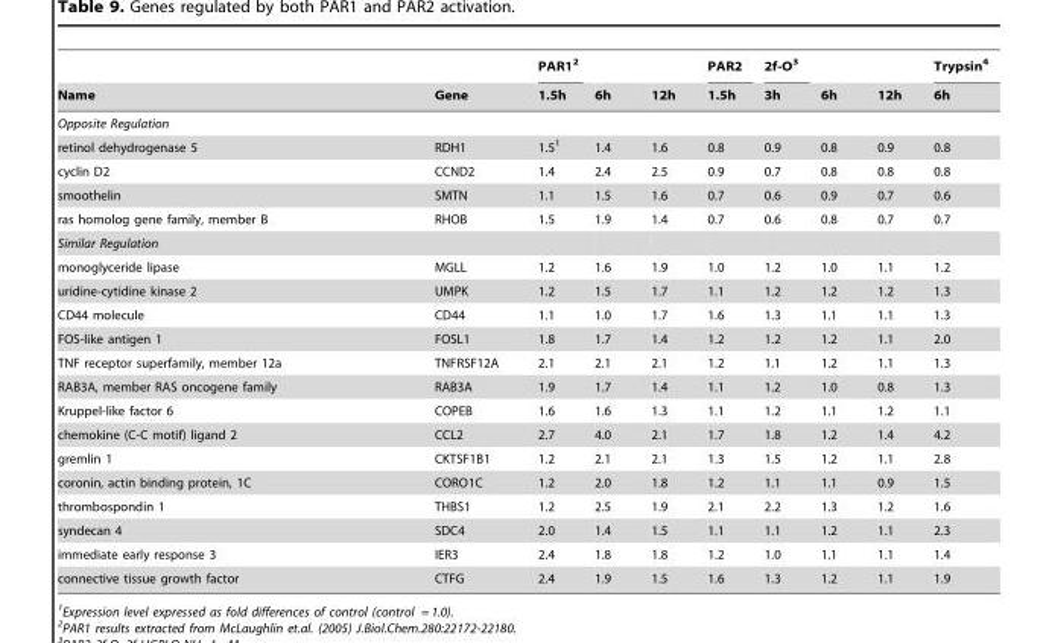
<table><thead><tr><td rowspan="2">Name</td><td rowspan="2">Gene</td><td rowspan="2">PAR1<sup>2</sup> 1.5h</td><td rowspan="2">6h</td><td rowspan="2">12h</td><td rowspan="2">PAR2 1.5h</td><td rowspan="2">2f-O<sup>3</sup> 3h</td><td rowspan="2">6h</td><td rowspan="2">12h</td><td rowspan="2">Trypsin<sup>4</sup> 6h</td></tr><tr></tr></thead><tbody><tr><td colspan="10">Opposite Regulation</td></tr><tr><td>retinol dehydrogenase 5</td><td>RDH1</td><td>1.5<sup>1</sup></td><td>1.4</td><td>1.6</td><td>0.8</td><td>0.9</td><td>0.8</td><td>0.9</td><td>0.8</td></tr><tr><td>cyclin D2</td><td>CCND2</td><td>1.4</td><td>2.4</td><td>2.5</td><td>0.9</td><td>0.7</td><td>0.8</td><td>0.8</td><td>0.8</td></tr><tr><td>smoothelin</td><td>SMTN</td><td>1.1</td><td>1.5</td><td>1.6</td><td>0.7</td><td>0.6</td><td>0.9</td><td>0.7</td><td>0.6</td></tr><tr><td>ras homolog gene family, member B</td><td>RHOB</td><td>1.5</td><td>1.9</td><td>1.4</td><td>0.7</td><td>0.6</td><td>0.8</td><td>0.7</td><td>0.7</td></tr><tr><td colspan="10">Similar Regulation</td></tr><tr><td>monoglyceride lipase</td><td>MGLL</td><td>1.2</td><td>1.6</td><td>1.9</td><td>1.0</td><td>1.2</td><td>1.0</td><td>1.1</td><td>1.2</td></tr><tr><td>uridine-cytidine kinase 2</td><td>UMPK</td><td>1.2</td><td>1.5</td><td>1.7</td><td>1.1</td><td>1.2</td><td>1.2</td><td>1.2</td><td>1.3</td></tr><tr><td>CD44 molecule</td><td>CD44</td><td>1.1</td><td>1.0</td><td>1.7</td><td>1.6</td><td>1.3</td><td>1.1</td><td>1.1</td><td>1.3</td></tr><tr><td>FOS-like antigen 1</td><td>FOSL1</td><td>1.8</td><td>1.7</td><td>1.4</td><td>1.2</td><td>1.2</td><td>1.2</td><td>1.1</td><td>2.0</td></tr><tr><td>TNF receptor superfamily, member 12a</td><td>TNFRSF12A</td><td>2.1</td><td>2.1</td><td>2.1</td><td>1.2</td><td>1.1</td><td>1.2</td><td>1.1</td><td>1.3</td></tr><tr><td>RAB3A, member RAS oncogene family</td><td>RAB3A</td><td>1.9</td><td>1.7</td><td>1.4</td><td>1.1</td><td>1.2</td><td>1.0</td><td>0.8</td><td>1.3</td></tr><tr><td>Kruppel-like factor 6</td><td>COPEB</td><td>1.6</td><td>1.6</td><td>1.3</td><td>1.1</td><td>1.2</td><td>1.1</td><td>1.2</td><td>1.1</td></tr><tr><td>chemokine (C-C motif) ligand 2</td><td>CCL2</td><td>2.7</td><td>4.0</td><td>2.1</td><td>1.7</td><td>1.8</td><td>1.2</td><td>1.4</td><td>4.2</td></tr><tr><td>gremlin 1</td><td>CKTSF1B1</td><td>1.2</td><td>2.1</td><td>2.1</td><td>1.3</td><td>1.5</td><td>1.2</td><td>1.1</td><td>2.8</td></tr><tr><td>coronin, actin binding protein, 1C</td><td>CORO1C</td><td>1.2</td><td>2.0</td><td>1.8</td><td>1.2</td><td>1.1</td><td>1.1</td><td>0.9</td><td>1.5</td></tr><tr><td>thrombospondin 1</td><td>THBS1</td><td>1.2</td><td>2.5</td><td>1.9</td><td>2.1</td><td>2.2</td><td>1.3</td><td>1.2</td><td>1.6</td></tr><tr><td>syndecan 4</td><td>SDC4</td><td>2.0</td><td>1.4</td><td>1.5</td><td>1.1</td><td>1.1</td><td>1.2</td><td>1.1</td><td>2.3</td></tr><tr><td>immediate early response 3</td><td>IER3</td><td>2.4</td><td>1.8</td><td>1.8</td><td>1.2</td><td>1.0</td><td>1.1</td><td>1.1</td><td>1.4</td></tr><tr><td>connective tissue growth factor</td><td>CTFG</td><td>2.4</td><td>1.9</td><td>1.5</td><td>1.6</td><td>1.3</td><td>1.2</td><td>1.1</td><td>1.9</td></tr></tbody></table>